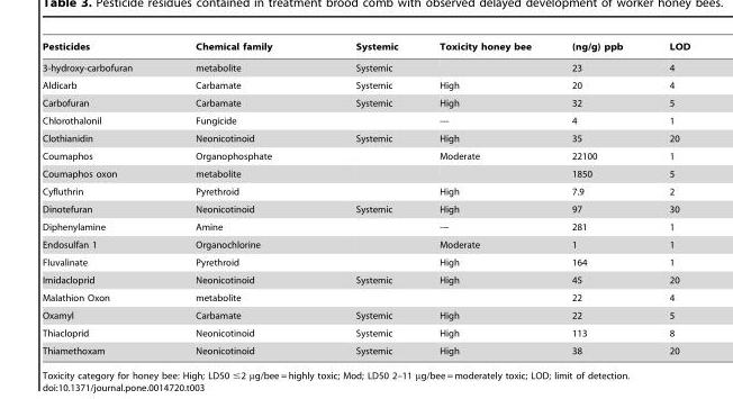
<table><thead><tr><td>Pesticides</td><td>Chemical family</td><td>Systemic</td><td>Toxicity honey bee</td><td>(ng/g) ppb</td><td>LOD</td></tr></thead><tbody><tr><td>3-hydroxy-carbofuran</td><td>metabolite</td><td>Systemic</td><td></td><td>23</td><td>4</td></tr><tr><td>Aldicarb</td><td>Carbamate</td><td>Systemic</td><td>High</td><td>20</td><td>4</td></tr><tr><td>Carbofuran</td><td>Carbamate</td><td>Systemic</td><td>High</td><td>32</td><td>5</td></tr><tr><td>Chlorothalonil</td><td>Fungicide</td><td></td><td>---</td><td>4</td><td>1</td></tr><tr><td>Clothianidin</td><td>Neonicotinoid</td><td>Systemic</td><td>High</td><td>35</td><td>20</td></tr><tr><td>Coumaphos</td><td>Organophosphate</td><td></td><td>Moderate</td><td>22100</td><td>1</td></tr><tr><td>Coumaphos oxon</td><td>metabolite</td><td></td><td></td><td>1850</td><td>5</td></tr><tr><td>Cyfluthrin</td><td>Pyrethroid</td><td></td><td>High</td><td>7.9</td><td>2</td></tr><tr><td>Dinotefuran</td><td>Neonicotinoid</td><td>Systemic</td><td>High</td><td>97</td><td>30</td></tr><tr><td>Diphenylamine</td><td>Amine</td><td></td><td>---</td><td>281</td><td>1</td></tr><tr><td>Endosulfan 1</td><td>Organochlorine</td><td></td><td>Moderate</td><td>1</td><td>1</td></tr><tr><td>Fluvalinate</td><td>Pyrethroid</td><td></td><td>High</td><td>164</td><td>1</td></tr><tr><td>Imidacloprid</td><td>Neonicotinoid</td><td>Systemic</td><td>High</td><td>45</td><td>20</td></tr><tr><td>Malathion Oxon</td><td>metabolite</td><td></td><td></td><td>22</td><td>4</td></tr><tr><td>Oxamyl</td><td>Carbamate</td><td>Systemic</td><td>High</td><td>22</td><td>5</td></tr><tr><td>Thiacloprid</td><td>Neonicotinoid</td><td>Systemic</td><td>High</td><td>113</td><td>8</td></tr><tr><td>Thiamethoxam</td><td>Neonicotinoid</td><td>Systemic</td><td>High</td><td>38</td><td>20</td></tr></tbody></table>